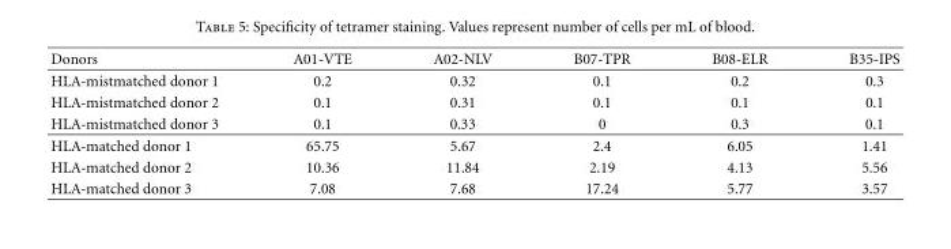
<table><thead><tr><td>Donors</td><td>A01-VTE</td><td>A02-NLV</td><td>B07-TPR</td><td>B08-ELR</td><td>B35-IPS</td></tr></thead><tbody><tr><td>HLA-mistmatched donor 1</td><td>0.2</td><td>0.32</td><td>0.1</td><td>0.2</td><td>0.3</td></tr><tr><td>HLA-mistmatched donor 2</td><td>0.1</td><td>0.31</td><td>0.1</td><td>0.1</td><td>0.1</td></tr><tr><td>HLA-mistmatched donor 3</td><td>0.1</td><td>0.33</td><td>0</td><td>0.3</td><td>0.1</td></tr><tr><td>HLA-matched donor 1</td><td>65.75</td><td>5.67</td><td>2.4</td><td>6.05</td><td>1.41</td></tr><tr><td>HLA-matched donor 2</td><td>10.36</td><td>11.84</td><td>2.19</td><td>4.13</td><td>5.56</td></tr><tr><td>HLA-matched donor 3</td><td>7.08</td><td>7.68</td><td>17.24</td><td>5.77</td><td>3.57</td></tr></tbody></table>